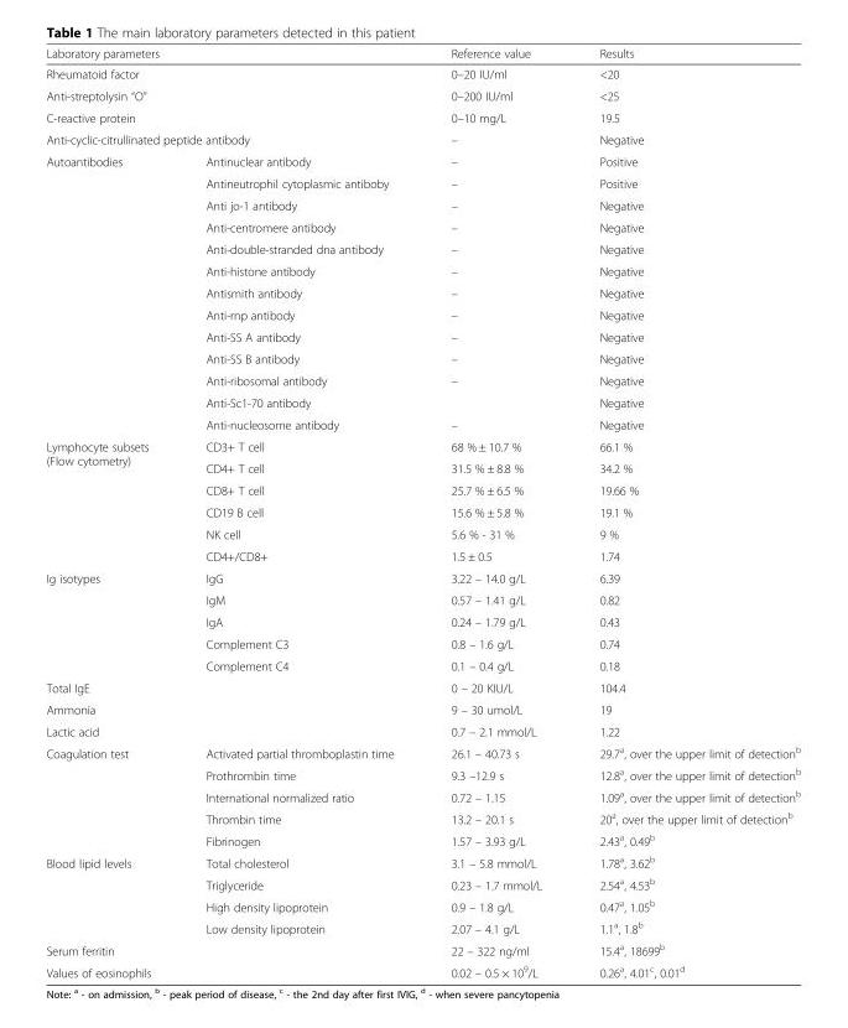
<table><thead><tr><td colspan="2">Laboratory parameters</td><td>Reference value</td><td>Results</td></tr></thead><tbody><tr><td colspan="2">Rheumatoid factor</td><td>0–20 IU/ml</td><td>&lt;20</td></tr><tr><td colspan="2">Anti-streptolysin “O”</td><td>0–200 IU/ml</td><td>&lt;25</td></tr><tr><td colspan="2">C-reactive protein</td><td>0–10 mg/L</td><td>19.5</td></tr><tr><td colspan="2">Anti-cyclic-citrullinated peptide antibody</td><td>–</td><td>Negative</td></tr><tr><td rowspan="13">Autoantibodies</td><td>Antinuclear antibody</td><td>–</td><td>Positive</td></tr><tr><td>Antineutrophil cytoplasmic antiboby</td><td>–</td><td>Positive</td></tr><tr><td>Anti jo-1 antibody</td><td>–</td><td>Negative</td></tr><tr><td>Anti-centromere antibody</td><td>–</td><td>Negative</td></tr><tr><td>Anti-double-stranded dna antibody</td><td>–</td><td>Negative</td></tr><tr><td>Anti-histone antibody</td><td>–</td><td>Negative</td></tr><tr><td>Antismith antibody</td><td>–</td><td>Negative</td></tr><tr><td>Anti-rnp antibody</td><td>–</td><td>Negative</td></tr><tr><td>Anti-SS A antibody</td><td>–</td><td>Negative</td></tr><tr><td>Anti-SS B antibody</td><td>–</td><td>Negative</td></tr><tr><td>Anti-ribosomal antibody</td><td>–</td><td>Negative</td></tr><tr><td>Anti-Sc1-70 antibody</td><td></td><td>Negative</td></tr><tr><td>Anti-nucleosome antibody</td><td>–</td><td>Negative</td></tr><tr><td rowspan="6">Lymphocyte subsets (Flow cytometry)</td><td>CD3+ T cell</td><td>68 % ± 10.7 %</td><td>66.1 %</td></tr><tr><td>CD4+ T cell</td><td>31.5 % ± 8.8 %</td><td>34.2 %</td></tr><tr><td>CD8+ T cell</td><td>25.7 % ± 6.5 %</td><td>19.66 %</td></tr><tr><td>CD19 B cell</td><td>15.6 % ± 5.8 %</td><td>19.1 %</td></tr><tr><td>NK cell</td><td>5.6 % - 31 %</td><td>9 %</td></tr><tr><td>CD4+/CD8+</td><td>1.5 ± 0.5</td><td>1.74</td></tr><tr><td rowspan="5">Ig isotypes</td><td>IgG</td><td>3.22 – 14.0 g/L</td><td>6.39</td></tr><tr><td>IgM</td><td>0.57 – 1.41 g/L</td><td>0.82</td></tr><tr><td>IgA</td><td>0.24 – 1.79 g/L</td><td>0.43</td></tr><tr><td>Complement C3</td><td>0.8 – 1.6 g/L</td><td>0.74</td></tr><tr><td>Complement C4</td><td>0.1 – 0.4 g/L</td><td>0.18</td></tr><tr><td colspan="2">Total IgE</td><td>0 – 20 KIU/L</td><td>104.4</td></tr><tr><td colspan="2">Ammonia</td><td>9 – 30 umol/L</td><td>19</td></tr><tr><td colspan="2">Lactic acid</td><td>0.7 – 2.1 mmol/L</td><td>1.22</td></tr><tr><td rowspan="5">Coagulation test</td><td>Activated partial thromboplastin time</td><td>26.1 – 40.73 s</td><td>29.7<sup>a</sup>, over the upper limit of detection<sup>b</sup></td></tr><tr><td>Prothrombin time</td><td>9.3 –12.9 s</td><td>12.8<sup>a</sup>, over the upper limit of detection<sup>b</sup></td></tr><tr><td>International normalized ratio</td><td>0.72 – 1.15</td><td>1.09<sup>a</sup>, over the upper limit of detection<sup>b</sup></td></tr><tr><td>Thrombin time</td><td>13.2 – 20.1 s</td><td>20<sup>a</sup>, over the upper limit of detection<sup>b</sup></td></tr><tr><td>Fibrinogen</td><td>1.57 – 3.93 g/L</td><td>2.43<sup>a</sup>, 0.49<sup>b</sup></td></tr><tr><td rowspan="4">Blood lipid levels</td><td>Total cholesterol</td><td>3.1 – 5.8 mmol/L</td><td>1.78<sup>a</sup>, 3.62<sup>b</sup></td></tr><tr><td>Triglyceride</td><td>0.23 – 1.7 mmol/L</td><td>2.54<sup>a</sup>, 4.53<sup>b</sup></td></tr><tr><td>High density lipoprotein</td><td>0.9 – 1.8 g/L</td><td>0.47<sup>a</sup>, 1.05<sup>b</sup></td></tr><tr><td>Low density lipoprotein</td><td>2.07 – 4.1 g/L</td><td>1.1<sup>a</sup>, 1.8<sup>b</sup></td></tr><tr><td colspan="2">Serum ferritin</td><td>22 – 322 ng/ml</td><td>15.4<sup>a</sup>, 18699<sup>b</sup></td></tr><tr><td colspan="2">Values of eosinophils</td><td>0.02 – 0.5 × 10<sup>9</sup>/L</td><td>0.26<sup>a</sup>, 4.01<sup>c</sup>, 0.01<sup>d</sup></td></tr></tbody></table>